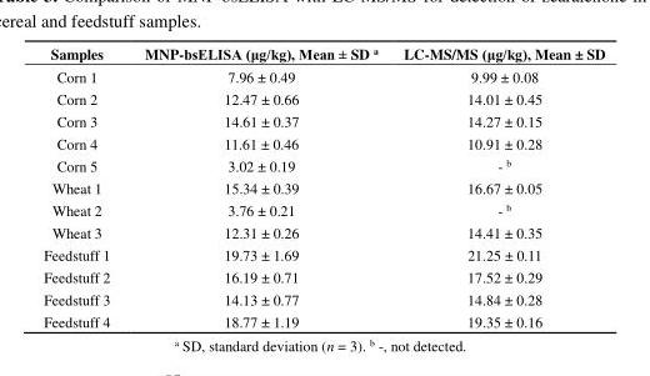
<table><thead><tr><td>Samples</td><td>MNP-bsELISA (μg/kg), Mean ± SD <sup>a</sup></td><td>LC-MS/MS (μg/kg), Mean ± SD</td></tr></thead><tbody><tr><td>Corn 1</td><td>7.96 ± 0.49</td><td>9.99 ± 0.08</td></tr><tr><td>Corn 2</td><td>12.47 ± 0.66</td><td>14.01 ± 0.45</td></tr><tr><td>Corn 3</td><td>14.61 ± 0.37</td><td>14.27 ± 0.15</td></tr><tr><td>Corn 4</td><td>11.61 ± 0.46</td><td>10.91 ± 0.28</td></tr><tr><td>Corn 5</td><td>3.02 ± 0.19</td><td>- <sup>b</sup></td></tr><tr><td>Wheat 1</td><td>15.34 ± 0.39</td><td>16.67 ± 0.05</td></tr><tr><td>Wheat 2</td><td>3.76 ± 0.21</td><td>- <sup>b</sup></td></tr><tr><td>Wheat 3</td><td>12.31 ± 0.26</td><td>14.41 ± 0.35</td></tr><tr><td>Feedstuff 1</td><td>19.73 ± 1.69</td><td>21.25 ± 0.11</td></tr><tr><td>Feedstuff 2</td><td>16.19 ± 0.71</td><td>17.52 ± 0.29</td></tr><tr><td>Feedstuff 3</td><td>14.13 ± 0.77</td><td>14.84 ± 0.28</td></tr><tr><td>Feedstuff 4</td><td>18.77 ± 1.19</td><td>19.35 ± 0.16</td></tr></tbody></table>